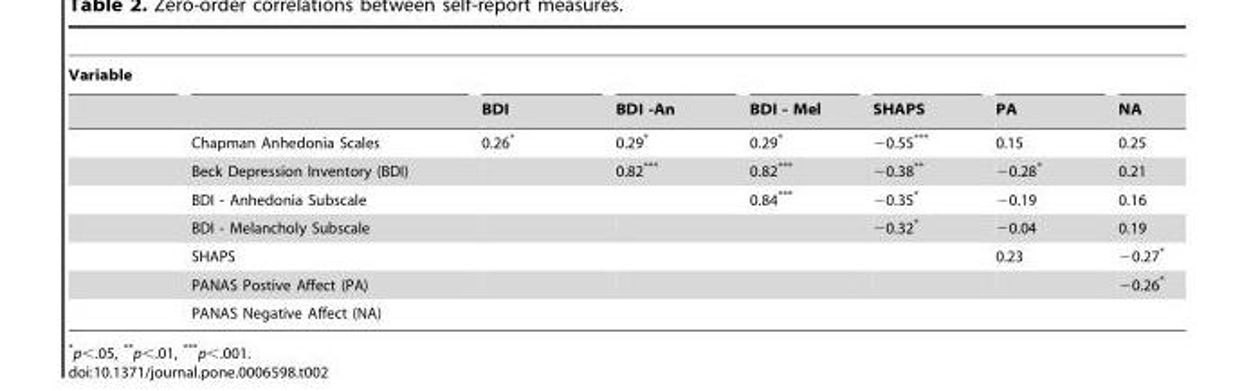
<table><thead><tr><td rowspan="2">Variable</td><td rowspan="2"></td><td rowspan="2">BDI</td><td rowspan="2">BDI -An</td><td rowspan="2">BDI - Mel</td><td rowspan="2">SHAPS</td><td rowspan="2">PA</td><td rowspan="2">NA</td></tr><tr></tr></thead><tbody><tr><td></td><td>Chapman Anhedonia Scales</td><td>0.26*</td><td>0.29*</td><td>0.29*</td><td>−0.55***</td><td>0.15</td><td>0.25</td></tr><tr><td></td><td>Beck Depression Inventory (BDI)</td><td></td><td>0.82***</td><td>0.82***</td><td>−0.38**</td><td>−0.28*</td><td>0.21</td></tr><tr><td></td><td>BDI - Anhedonia Subscale</td><td></td><td></td><td>0.84***</td><td>−0.35*</td><td>−0.19</td><td>0.16</td></tr><tr><td></td><td>BDI - Melancholy Subscale</td><td></td><td></td><td></td><td>−0.32*</td><td>−0.04</td><td>0.19</td></tr><tr><td></td><td>SHAPS</td><td></td><td></td><td></td><td></td><td>0.23</td><td>−0.27*</td></tr><tr><td></td><td>PANAS Postive Affect (PA)</td><td></td><td></td><td></td><td></td><td></td><td>−0.26*</td></tr><tr><td></td><td>PANAS Negative Affect (NA)</td><td></td><td></td><td></td><td></td><td></td><td></td></tr></tbody></table>